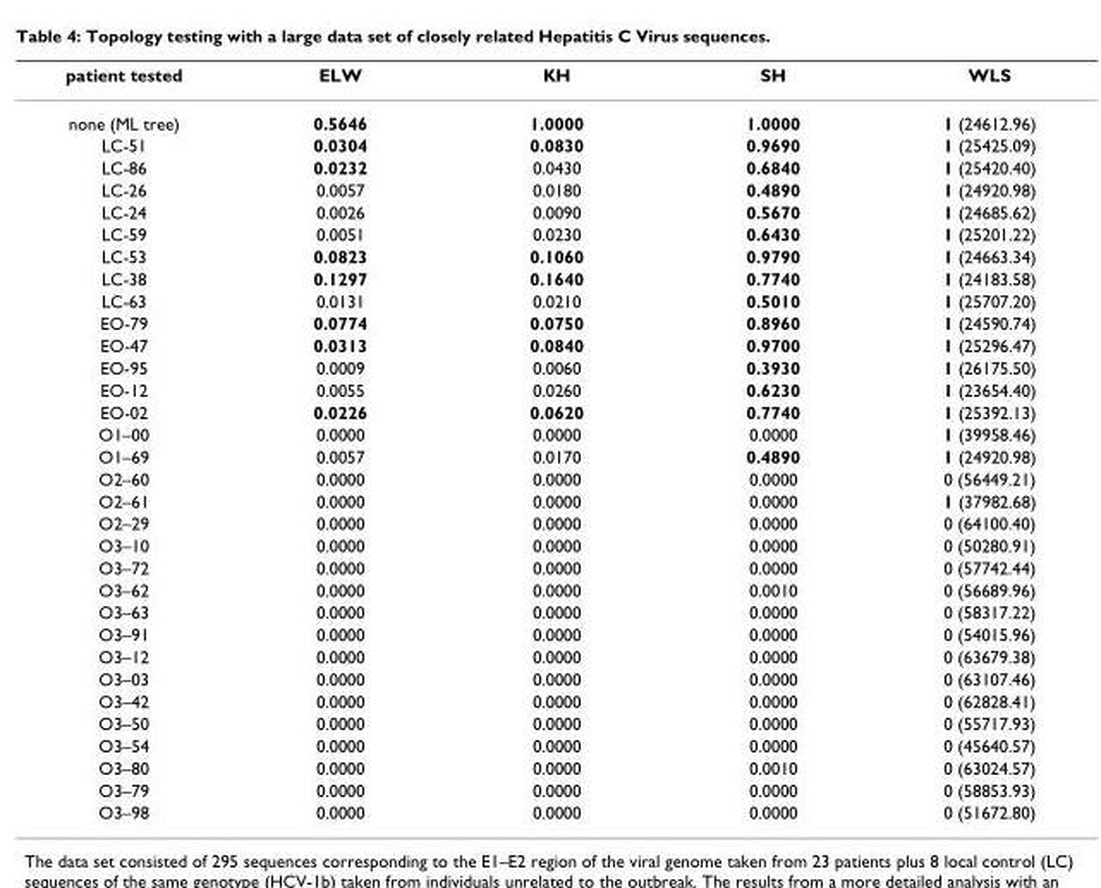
<table><thead><tr><td>patient tested</td><td>ELW</td><td>KH</td><td>SH</td><td>WLS</td></tr></thead><tbody><tr><td>none (ML tree)</td><td>0.5646</td><td>1.0000</td><td>1.0000</td><td>1 (24612.96)</td></tr><tr><td>LC-51</td><td>0.0304</td><td>0.0830</td><td>0.9690</td><td>1 (25425.09)</td></tr><tr><td>LC-86</td><td>0.0232</td><td>0.0430</td><td>0.6840</td><td>1 (25420.40)</td></tr><tr><td>LC-26</td><td>0.0057</td><td>0.0180</td><td>0.4890</td><td>1 (24920.98)</td></tr><tr><td>LC-24</td><td>0.0026</td><td>0.0090</td><td>0.5670</td><td>1 (24685.62)</td></tr><tr><td>LC-59</td><td>0.0051</td><td>0.0230</td><td>0.6430</td><td>1 (25201.22)</td></tr><tr><td>LC-53</td><td>0.0823</td><td>0.1060</td><td>0.9790</td><td>1 (24663.34)</td></tr><tr><td>LC-38</td><td>0.1297</td><td>0.1640</td><td>0.7740</td><td>1 (24183.58)</td></tr><tr><td>LC-63</td><td>0.0131</td><td>0.0210</td><td>0.5010</td><td>1 (25707.20)</td></tr><tr><td>EO-79</td><td>0.0774</td><td>0.0750</td><td>0.8960</td><td>1 (24590.74)</td></tr><tr><td>EO-47</td><td>0.0313</td><td>0.0840</td><td>0.9700</td><td>1 (25296.47)</td></tr><tr><td>EO-95</td><td>0.0009</td><td>0.0060</td><td>0.3930</td><td>1 (26175.50)</td></tr><tr><td>EO-12</td><td>0.0055</td><td>0.0260</td><td>0.6230</td><td>1 (23654.40)</td></tr><tr><td>EO-02</td><td>0.0226</td><td>0.0620</td><td>0.7740</td><td>1 (25392.13)</td></tr><tr><td>O1–00</td><td>0.0000</td><td>0.0000</td><td>0.0000</td><td>1 (39958.46)</td></tr><tr><td>O1–69</td><td>0.0057</td><td>0.0170</td><td>0.4890</td><td>1 (24920.98)</td></tr><tr><td>O2–60</td><td>0.0000</td><td>0.0000</td><td>0.0000</td><td>0 (56449.21)</td></tr><tr><td>O2–61</td><td>0.0000</td><td>0.0000</td><td>0.0000</td><td>1 (37982.68)</td></tr><tr><td>O2–29</td><td>0.0000</td><td>0.0000</td><td>0.0000</td><td>0 (64100.40)</td></tr><tr><td>O3–10</td><td>0.0000</td><td>0.0000</td><td>0.0000</td><td>0 (50280.91)</td></tr><tr><td>O3–72</td><td>0.0000</td><td>0.0000</td><td>0.0000</td><td>0 (57742.44)</td></tr><tr><td>O3–62</td><td>0.0000</td><td>0.0000</td><td>0.0010</td><td>0 (56689.96)</td></tr><tr><td>O3–63</td><td>0.0000</td><td>0.0000</td><td>0.0000</td><td>0 (58317.22)</td></tr><tr><td>O3–91</td><td>0.0000</td><td>0.0000</td><td>0.0000</td><td>0 (54015.96)</td></tr><tr><td>O3–12</td><td>0.0000</td><td>0.0000</td><td>0.0000</td><td>0 (63679.38)</td></tr><tr><td>O3–03</td><td>0.0000</td><td>0.0000</td><td>0.0000</td><td>0 (63107.46)</td></tr><tr><td>O3–42</td><td>0.0000</td><td>0.0000</td><td>0.0000</td><td>0 (62828.41)</td></tr><tr><td>O3–50</td><td>0.0000</td><td>0.0000</td><td>0.0000</td><td>0 (55717.93)</td></tr><tr><td>O3–54</td><td>0.0000</td><td>0.0000</td><td>0.0000</td><td>0 (45640.57)</td></tr><tr><td>O3–80</td><td>0.0000</td><td>0.0000</td><td>0.0010</td><td>0 (63024.57)</td></tr><tr><td>O3–79</td><td>0.0000</td><td>0.0000</td><td>0.0000</td><td>0 (58853.93)</td></tr><tr><td>O3–98</td><td>0.0000</td><td>0.0000</td><td>0.0000</td><td>0 (51672.80)</td></tr></tbody></table>